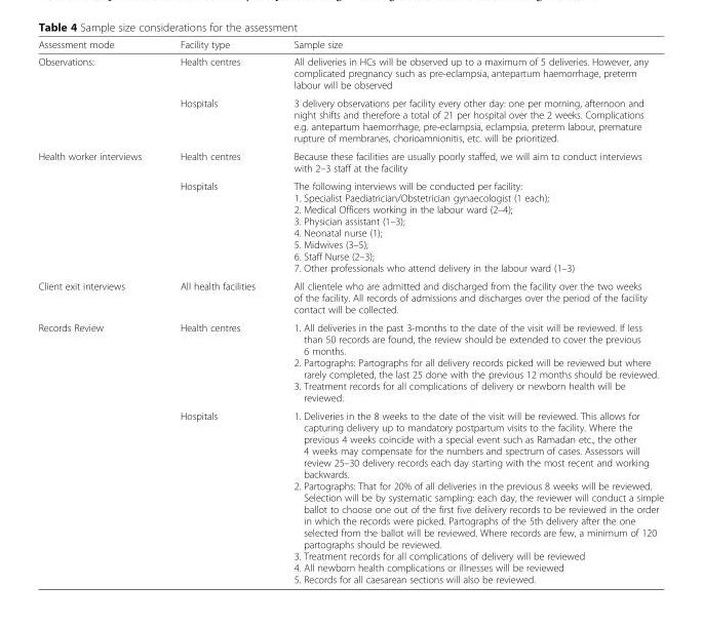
<table><thead><tr><td>Assessment mode</td><td>Facility type</td><td>Sample size</td></tr></thead><tbody><tr><td rowspan="2">Observations:</td><td>Health centres</td><td>All deliveries in HCs will be observed up to a maximum of 5 deliveries. However, any complicated pregnancy such as pre-eclampsia, antepartum haemorrhage, preterm labour will be observed</td></tr><tr><td>Hospitals</td><td>3 delivery observations per facility every other day: one per morning, afternoon and night shifts and therefore a total of 21 per hospital over the 2 weeks. Complications e.g. antepartum haemorrhage, pre-eclampsia, eclampsia, preterm labour, premature rupture of membranes, chorioamnionitis, etc. will be prioritized.</td></tr><tr><td rowspan="2">Health worker interviews</td><td>Health centres</td><td>Because these facilities are usually poorly staffed, we will aim to conduct interviews with 2–3 staff at the facility</td></tr><tr><td>Hospitals</td><td>The following interviews will be conducted per facility: 1. Specialist Paediatrician/Obstetrician gynaecologist (1 each); 2. Medical Officers working in the labour ward (2–4); 3. Physician assistant (1–3); 4. Neonatal nurse (1); 5. Midwives (3–5); 6. Staff Nurse (2–3); 7. Other professionals who attend delivery in the labour ward (1–3)</td></tr><tr><td>Client exit interviews</td><td>All health facilities</td><td>All clientele who are admitted and discharged from the facility over the two weeks of the facility. All records of admissions and discharges over the period of the facility contact will be collected.</td></tr><tr><td rowspan="2">Records Review</td><td>Health centres</td><td>1. All deliveries in the past 3-months to the date of the visit will be reviewed. If less than 50 records are found, the review should be extended to cover the previous 6 months. 2. Partographs: Partographs for all delivery records picked will be reviewed but where rarely completed, the last 25 done with the previous 12 months should be reviewed. 3. Treatment records for all complications of delivery or newborn health will be reviewed.</td></tr><tr><td>Hospitals</td><td>1. Deliveries in the 8 weeks to the date of the visit will be reviewed. This allows for capturing delivery up to mandatory postpartum visits to the facility. Where the previous 4 weeks coincide with a special event such as Ramadan etc., the other 4 weeks may compensate for the numbers and spectrum of cases. Assessors will review 25–30 delivery records each day starting with the most recent and working backwards. 2. Partographs: That for 20% of all deliveries in the previous 8 weeks will be reviewed. Selection will be by systematic sampling: each day, the reviewer will conduct a simple ballot to choose one out of the first five delivery records to be reviewed in the order in which the records were picked. Partographs of the 5th delivery after the one selected from the ballot will be reviewed. Where records are few, a minimum of 120 partographs should be reviewed. 3. Treatment records for all complications of delivery will be reviewed 4. All newborn health complications or illnesses will be reviewed 5. Records for all caesarean sections will also be reviewed.</td></tr></tbody></table>